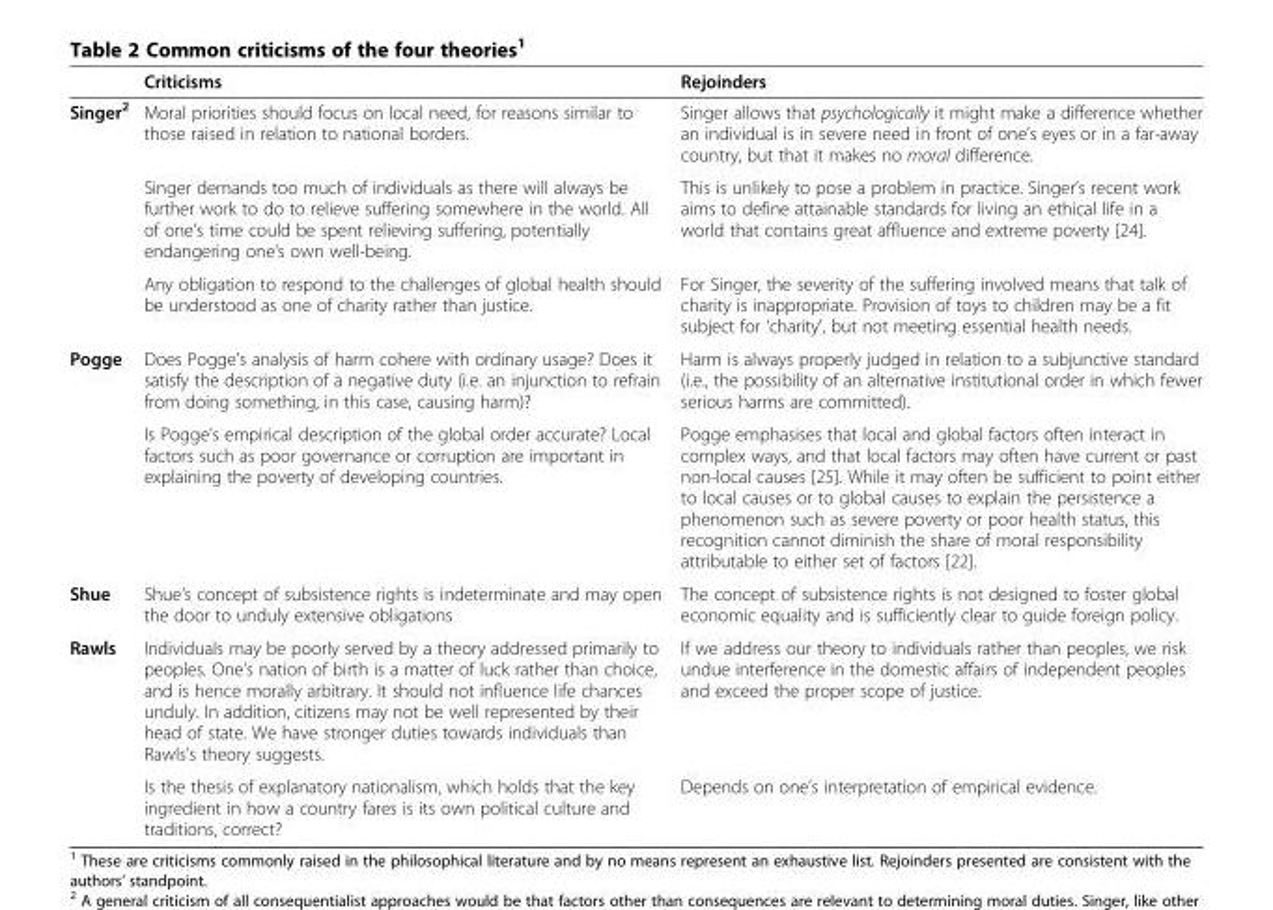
<table><thead><tr><td></td><td>Criticisms</td><td>Rejoinders</td></tr></thead><tbody><tr><td rowspan="3">Singer<sup>2</sup></td><td>Moral priorities should focus on local need, for reasons similar to those raised in relation to national borders.</td><td>Singer allows that psychologically it might make a difference whether an individual is in severe need in front of one’s eyes or in a far-away country, but that it makes no moral difference.</td></tr><tr><td>Singer demands too much of individuals as there will always be further work to do to relieve suffering somewhere in the world. All of one’s time could be spent relieving suffering, potentially endangering one’s own well-being.</td><td>This is unlikely to pose a problem in practice. Singer’s recent work aims to define attainable standards for living an ethical life in a world that contains great affluence and extreme poverty [24].</td></tr><tr><td>Any obligation to respond to the challenges of global health should be understood as one of charity rather than justice.</td><td>For Singer, the severity of the suffering involved means that talk of charity is inappropriate. Provision of toys to children may be a fit subject for ‘charity’, but not meeting essential health needs.</td></tr><tr><td rowspan="2">Pogge</td><td>Does Pogge’s analysis of harm cohere with ordinary usage? Does it satisfy the description of a negative duty (i.e. an injunction to refrain from doing something, in this case, causing harm)?</td><td>Harm is always properly judged in relation to a subjunctive standard (i.e., the possibility of an alternative institutional order in which fewer serious harms are committed).</td></tr><tr><td>Is Pogge’s empirical description of the global order accurate? Local factors such as poor governance or corruption are important in explaining the poverty of developing countries.</td><td>Pogge emphasises that local and global factors often interact in complex ways, and that local factors may often have current or past non-local causes [25]. While it may often be sufficient to point either to local causes or to global causes to explain the persistence a phenomenon such as severe poverty or poor health status, this recognition cannot diminish the share of moral responsibility attributable to either set of factors [22].</td></tr><tr><td>Shue</td><td>Shue’s concept of subsistence rights is indeterminate and may open the door to unduly extensive obligations</td><td>The concept of subsistence rights is not designed to foster global economic equality and is sufficiently clear to guide foreign policy.</td></tr><tr><td rowspan="2">Rawls</td><td>Individuals may be poorly served by a theory addressed primarily to peoples. One’s nation of birth is a matter of luck rather than choice, and is hence morally arbitrary. It should not influence life chances unduly. In addition, citizens may not be well represented by their head of state. We have stronger duties towards individuals than Rawls’s theory suggests.</td><td>If we address our theory to individuals rather than peoples, we risk undue interference in the domestic affairs of independent peoples and exceed the proper scope of justice.</td></tr><tr><td>Is the thesis of explanatory nationalism, which holds that the key ingredient in how a country fares is its own political culture and traditions, correct?</td><td>Depends on one’s interpretation of empirical evidence.</td></tr></tbody></table>